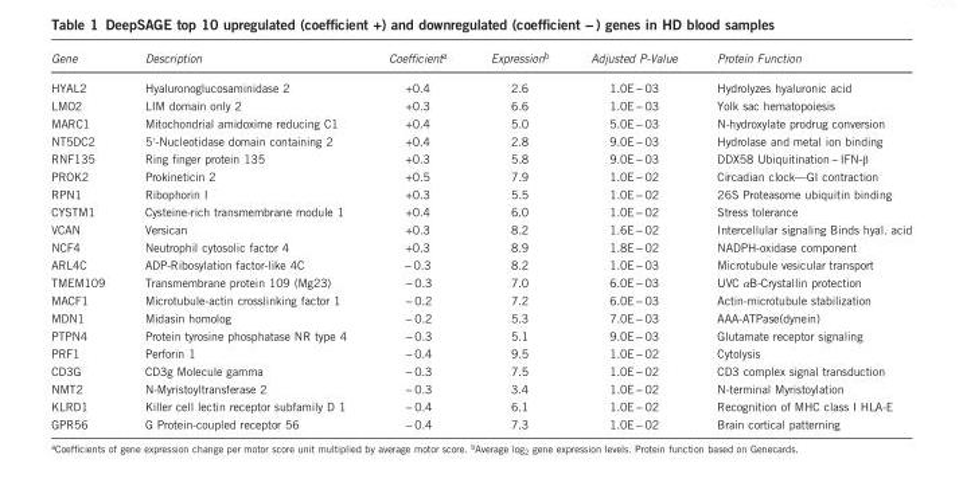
<table><thead><tr><td>Gene</td><td>Description</td><td>Coefficient<sup>a</sup></td><td>Expression<sup>b</sup></td><td>Adjusted P-Value</td><td>Protein Function</td></tr></thead><tbody><tr><td>HYAL2</td><td>Hyaluronoglucosaminidase 2</td><td>+0.4</td><td>2.6</td><td>1.0E − 03</td><td>Hydrolyzes hyaluronic acid</td></tr><tr><td>LMO2</td><td>LIM domain only 2</td><td>+0.3</td><td>6.6</td><td>1.0E − 03</td><td>Yolk sac hematopoiesis</td></tr><tr><td>MARC1</td><td>Mitochondrial amidoxime reducing C1</td><td>+0.4</td><td>5.0</td><td>5.0E − 03</td><td>N-hydroxylate prodrug conversion</td></tr><tr><td>NT5DC2</td><td>5′-Nucleotidase domain containing 2</td><td>+0.4</td><td>2.8</td><td>9.0E − 03</td><td>Hydrolase and metal ion binding</td></tr><tr><td>RNF135</td><td>Ring finger protein 135</td><td>+0.3</td><td>5.8</td><td>9.0E − 03</td><td>DDX58 Ubiquitination~ IFN-β</td></tr><tr><td>PROK2</td><td>Prokineticin 2</td><td>+0.5</td><td>7.9</td><td>1.0E − 02</td><td>Circadian clock—GI contraction</td></tr><tr><td>RPN1</td><td>Ribophorin I</td><td>+0.3</td><td>5.5</td><td>1.0E − 02</td><td>26S Proteasome ubiquitin binding</td></tr><tr><td>CYSTM1</td><td>Cysteine-rich transmembrane module 1</td><td>+0.4</td><td>6.0</td><td>1.0E − 02</td><td>Stress tolerance</td></tr><tr><td>VCAN</td><td>Versican</td><td>+0.3</td><td>8.2</td><td>1.6E − 02</td><td>Intercellular signaling Binds hyal. acid</td></tr><tr><td>NCF4</td><td>Neutrophil cytosolic factor 4</td><td>+0.3</td><td>8.9</td><td>1.8E − 02</td><td>NADPH-oxidase component</td></tr><tr><td>ARL4C</td><td>ADP-Ribosylation factor-like 4C</td><td>− 0.3</td><td>8.2</td><td>1.0E − 03</td><td>Microtubule vesicular transport</td></tr><tr><td>TMEM109</td><td>Transmembrane protein 109 (Mg23)</td><td>− 0.3</td><td>7.0</td><td>6.0E − 03</td><td>UVC αB-Crystallin protection</td></tr><tr><td>MACF1</td><td>Microtubule-actin crosslinking factor 1</td><td>− 0.2</td><td>7.2</td><td>6.0E − 03</td><td>Actin-microtubule stabilization</td></tr><tr><td>MDN1</td><td>Midasin homolog</td><td>− 0.2</td><td>5.3</td><td>7.0E − 03</td><td>AAA-ATPase(dynein)</td></tr><tr><td>PTPN4</td><td>Protein tyrosine phosphatase NR type 4</td><td>− 0.3</td><td>5.1</td><td>9.0E − 03</td><td>Glutamate receptor signaling</td></tr><tr><td>PRF1</td><td>Perforin 1</td><td>− 0.4</td><td>9.5</td><td>1.0E − 02</td><td>Cytolysis</td></tr><tr><td>CD3G</td><td>CD3g Molecule gamma</td><td>− 0.3</td><td>7.5</td><td>1.0E − 02</td><td>CD3 complex signal transduction</td></tr><tr><td>NMT2</td><td>N-Myristoyltransferase 2</td><td>− 0.3</td><td>3.4</td><td>1.0E − 02</td><td>N-terminal Myristoylation</td></tr><tr><td>KLRD1</td><td>Killer cell lectin receptor subfamily D 1</td><td>− 0.4</td><td>6.1</td><td>1.0E − 02</td><td>Recognition of MHC class I HLA-E</td></tr><tr><td>GPR56</td><td>G Protein-coupled receptor 56</td><td>− 0.4</td><td>7.3</td><td>1.0E − 02</td><td>Brain cortical patterning</td></tr></tbody></table>